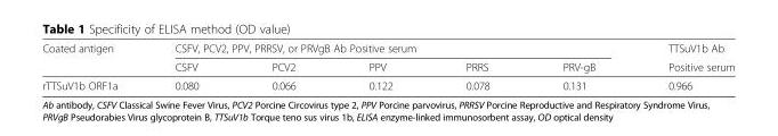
<table><thead><tr><td rowspan="2">Coated antigen</td><td colspan="5">CSFV, PCV2, PPV, PRRSV, or PRVgB Ab Positive serum</td><td rowspan="2">TTSuV1b Ab Positive serum</td></tr><tr><td>CSFV</td><td>PCV2</td><td>PPV</td><td>PRRS</td><td>PRV-gB</td></tr></thead><tbody><tr><td>rTTSuV1b ORF1a</td><td>0.080</td><td>0.066</td><td>0.122</td><td>0.078</td><td>0.131</td><td>0.966</td></tr></tbody></table>